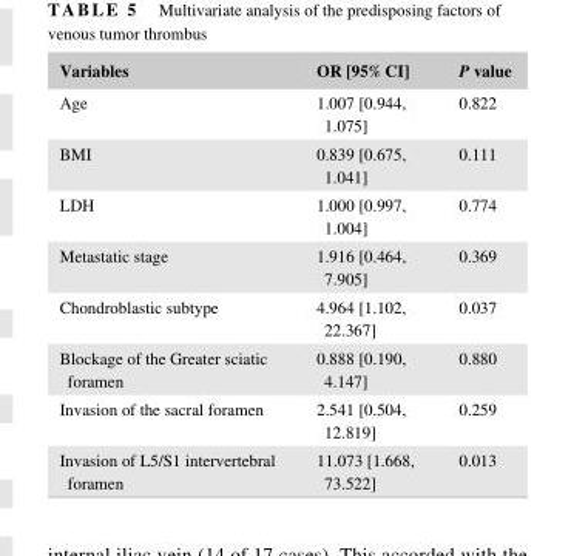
<table><thead><tr><td>Variables</td><td>OR [95% CI]</td><td>P value</td></tr></thead><tbody><tr><td>Age</td><td>1.007 [0.944, 1.075]</td><td>0.822</td></tr><tr><td>BMI</td><td>0.839 [0.675, 1.041]</td><td>0.111</td></tr><tr><td>LDH</td><td>1.000 [0.997, 1.004]</td><td>0.774</td></tr><tr><td>Metastatic stage</td><td>1.916 [0.464, 7.905]</td><td>0.369</td></tr><tr><td>Chondroblastic subtype</td><td>4.964 [1.102, 22.367]</td><td>0.037</td></tr><tr><td>Blockage of the Greater sciatic foramen</td><td>0.888 [0.190, 4.147]</td><td>0.880</td></tr><tr><td>Invasion of the sacral foramen</td><td>2.541 [0.504, 12.819]</td><td>0.259</td></tr><tr><td>Invasion of L5/S1 intervertebral foramen</td><td>11.073 [1.668, 73.522]</td><td>0.013</td></tr></tbody></table>